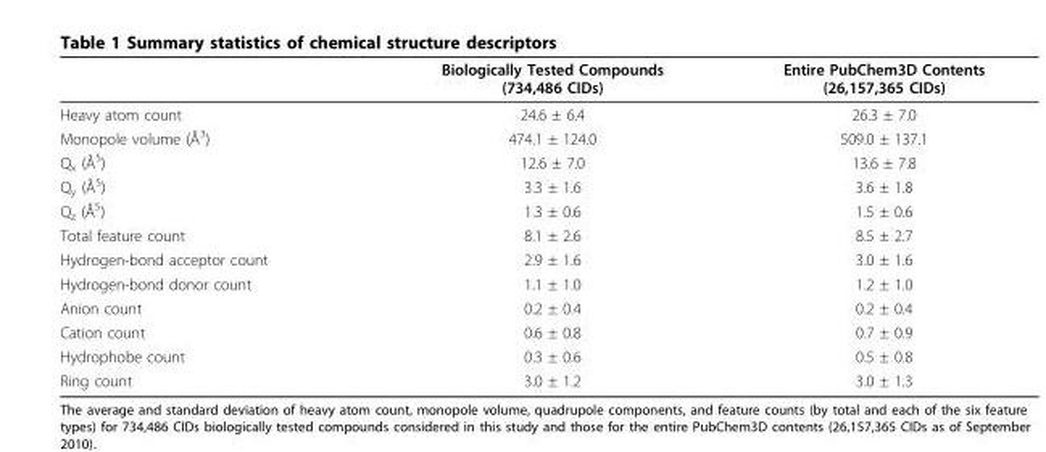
<table><thead><tr><td></td><td>Biologically Tested Compounds (734,486 CIDs)</td><td>Entire PubChem3D Contents (26,157,365 CIDs)</td></tr></thead><tbody><tr><td>Heavy atom count</td><td>24.6 ± 6.4</td><td>26.3 ± 7.0</td></tr><tr><td>Monopole volume (Å<sup>3</sup>)</td><td>474.1 ± 124.0</td><td>509.0 ± 137.1</td></tr><tr><td>Q<sub>x</sub> (Å<sup>5</sup>)</td><td>12.6 ± 7.0</td><td>13.6 ± 7.8</td></tr><tr><td>Q<sub>y</sub> (Å<sup>5</sup>)</td><td>3.3 ± 1.6</td><td>3.6 ± 1.8</td></tr><tr><td>Q<sub>z</sub> (Å<sup>5</sup>)</td><td>1.3 ± 0.6</td><td>1.5 ± 0.6</td></tr><tr><td>Total feature count</td><td>8.1 ± 2.6</td><td>8.5 ± 2.7</td></tr><tr><td>Hydrogen-bond acceptor count</td><td>2.9 ± 1.6</td><td>3.0 ± 1.6</td></tr><tr><td>Hydrogen-bond donor count</td><td>1.1 ± 1.0</td><td>1.2 ± 1.0</td></tr><tr><td>Anion count</td><td>0.2 ± 0.4</td><td>0.2 ± 0.4</td></tr><tr><td>Cation count</td><td>0.6 ± 0.8</td><td>0.7 ± 0.9</td></tr><tr><td>Hydrophobe count</td><td>0.3 ± 0.6</td><td>0.5 ± 0.8</td></tr><tr><td>Ring count</td><td>3.0 ± 1.2</td><td>3.0 ± 1.3</td></tr></tbody></table>